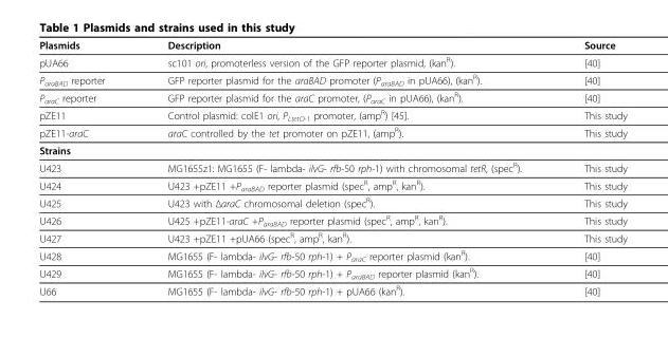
<table><thead><tr><td>Plasmids</td><td>Description</td><td>Source</td></tr></thead><tbody><tr><td>pUA66</td><td>sc101 ori, promoterless version of the GFP reporter plasmid, (kan<sup>R</sup>).</td><td>[40]</td></tr><tr><td>P<sub>araBAD</sub> reporter</td><td>GFP reporter plasmid for the araBAD promoter (P<sub>araBAD</sub> in pUA66), (kan<sup>R</sup>).</td><td>[40]</td></tr><tr><td>P<sub>araC</sub> reporter</td><td>GFP reporter plasmid for the araC promoter, (P<sub>araC</sub> in pUA66), (kan<sup>R</sup>).</td><td>[40]</td></tr><tr><td>pZE11</td><td>Control plasmid: colE1 ori, P<sub>LtetO-1</sub> promoter, (amp<sup>R</sup>) [45].</td><td>This study</td></tr><tr><td>pZE11-araC</td><td>araC controlled by the tet promoter on pZE11, (amp<sup>R</sup>).</td><td>This study</td></tr><tr><td colspan="3">Strains</td></tr><tr><td>U423</td><td>MG1655z1: MG1655 (F- lambda- ilvG- rfb-50 rph-1) with chromosomal tetR, (spec<sup>R</sup>).</td><td>This study</td></tr><tr><td>U424</td><td>U423 +pZE11 +P<sub>araBAD</sub> reporter plasmid (spec<sup>R</sup>, amp<sup>R</sup>, kan<sup>R</sup>).</td><td>This study</td></tr><tr><td>U425</td><td>U423 with ΔaraC chromosomal deletion (spec<sup>R</sup>).</td><td>This study</td></tr><tr><td>U426</td><td>U425 +pZE11-araC +P<sub>araBAD</sub> reporter plasmid (spec<sup>R</sup>, amp<sup>R</sup>, kan<sup>R</sup>).</td><td>This study</td></tr><tr><td>U427</td><td>U423 +pZE11 +pUA66 (spec<sup>R</sup>, amp<sup>R</sup>, kan<sup>R</sup>).</td><td>This study</td></tr><tr><td>U428</td><td>MG1655 (F- lambda- ilvG- rfb-50 rph-1) + P<sub>araC</sub> reporter plasmid (kan<sup>R</sup>).</td><td>[40]</td></tr><tr><td>U429</td><td>MG1655 (F- lambda- ilvG- rfb-50 rph-1) + P<sub>araBAD</sub> reporter plasmid (kan<sup>R</sup>).</td><td>[40]</td></tr><tr><td>U66</td><td>MG1655 (F- lambda- ilvG- rfb-50 rph-1) + pUA66 (kan<sup>R</sup>).</td><td>[40]</td></tr></tbody></table>